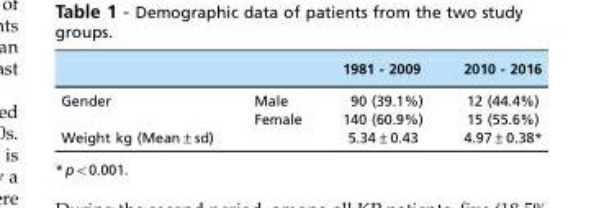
<table><thead><tr><td></td><td></td><td>1981 - 2009</td><td>2010 - 2016</td></tr></thead><tbody><tr><td rowspan="2">Gender</td><td>Male</td><td>90 (39.1%)</td><td>12 (44.4%)</td></tr><tr><td>Female</td><td>140 (60.9%)</td><td>15 (55.6%)</td></tr><tr><td>Weight kg (Mean±sd)</td><td></td><td>5.34±0.43</td><td>4.97±0.38*</td></tr></tbody></table>